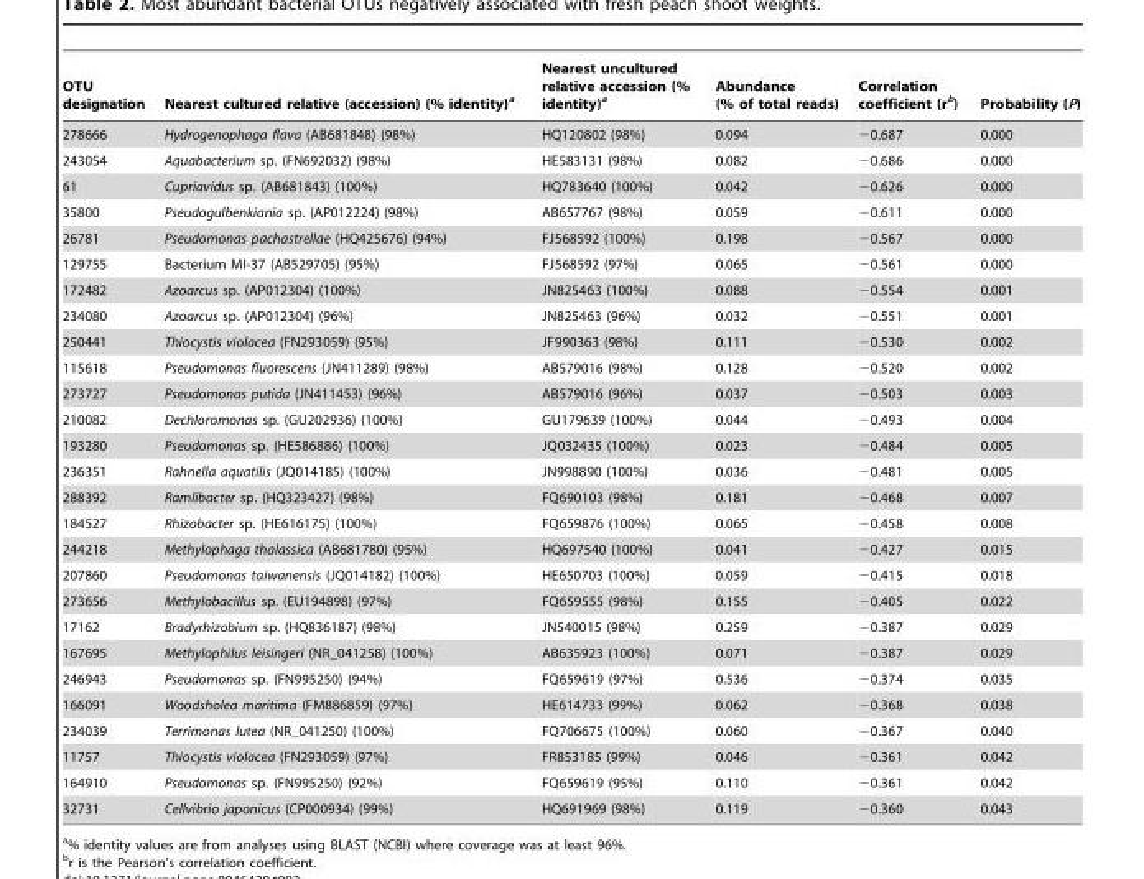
<table><thead><tr><td>OTU designation</td><td>Nearest cultured relative (accession) (% identity)<sup>a</sup></td><td>Nearest uncultured relative accession (% identity)<sup>a</sup></td><td>Abundance (% of total reads)</td><td>Correlation coefficient (r<sup>b</sup>)</td><td>Probability (P)</td></tr></thead><tbody><tr><td>278666</td><td>Hydrogenophaga flava (AB681848) (98%)</td><td>HQ120802 (98%)</td><td>0.094</td><td>−0.687</td><td>0.000</td></tr><tr><td>243054</td><td>Aquabacterium sp. (FN692032) (98%)</td><td>HE583131 (98%)</td><td>0.082</td><td>−0.686</td><td>0.000</td></tr><tr><td>61</td><td>Cupriavidus sp. (AB681843) (100%)</td><td>HQ783640 (100%)</td><td>0.042</td><td>−0.626</td><td>0.000</td></tr><tr><td>35800</td><td>Pseudogulbenkiania sp. (AP012224) (98%)</td><td>AB657767 (98%)</td><td>0.059</td><td>−0.611</td><td>0.000</td></tr><tr><td>26781</td><td>Pseudomonas pachastrellae (HQ425676) (94%)</td><td>FJ568592 (100%)</td><td>0.198</td><td>−0.567</td><td>0.000</td></tr><tr><td>129755</td><td>Bacterium MI-37 (AB529705) (95%)</td><td>FJ568592 (97%)</td><td>0.065</td><td>−0.561</td><td>0.000</td></tr><tr><td>172482</td><td>Azoarcus sp. (AP012304) (100%)</td><td>JN825463 (100%)</td><td>0.088</td><td>−0.554</td><td>0.001</td></tr><tr><td>234080</td><td>Azoarcus sp. (AP012304) (96%)</td><td>JN825463 (96%)</td><td>0.032</td><td>−0.551</td><td>0.001</td></tr><tr><td>250441</td><td>Thiocystis violacea (FN293059) (95%)</td><td>JF990363 (98%)</td><td>0.111</td><td>−0.530</td><td>0.002</td></tr><tr><td>115618</td><td>Pseudomonas fluorescens (JN411289) (98%)</td><td>AB579016 (98%)</td><td>0.128</td><td>−0.520</td><td>0.002</td></tr><tr><td>273727</td><td>Pseudomonas putida (JN411453) (96%)</td><td>AB579016 (96%)</td><td>0.037</td><td>−0.503</td><td>0.003</td></tr><tr><td>210082</td><td>Dechloromonas sp. (GU202936) (100%)</td><td>GU179639 (100%)</td><td>0.044</td><td>−0.493</td><td>0.004</td></tr><tr><td>193280</td><td>Pseudomonas sp. (HE586886) (100%)</td><td>JQ032435 (100%)</td><td>0.023</td><td>−0.484</td><td>0.005</td></tr><tr><td>236351</td><td>Rahnella aquatilis (JQ014185) (100%)</td><td>JN998890 (100%)</td><td>0.036</td><td>−0.481</td><td>0.005</td></tr><tr><td>288392</td><td>Ramlibacter sp. (HQ323427) (98%)</td><td>FQ690103 (98%)</td><td>0.181</td><td>−0.468</td><td>0.007</td></tr><tr><td>184527</td><td>Rhizobacter sp. (HE616175) (100%)</td><td>FQ659876 (100%)</td><td>0.065</td><td>−0.458</td><td>0.008</td></tr><tr><td>244218</td><td>Methylophaga thalassica (AB681780) (95%)</td><td>HQ697540 (100%)</td><td>0.041</td><td>−0.427</td><td>0.015</td></tr><tr><td>207860</td><td>Pseudomonas taiwanensis (JQ014182) (100%)</td><td>HE650703 (100%)</td><td>0.059</td><td>−0.415</td><td>0.018</td></tr><tr><td>273656</td><td>Methylobacillus sp. (EU194898) (97%)</td><td>FQ659555 (98%)</td><td>0.155</td><td>−0.405</td><td>0.022</td></tr><tr><td>17162</td><td>Bradyrhizobium sp. (HQ836187) (98%)</td><td>JN540015 (98%)</td><td>0.259</td><td>−0.387</td><td>0.029</td></tr><tr><td>167695</td><td>Methylophilus leisingeri (NR_041258) (100%)</td><td>AB635923 (100%)</td><td>0.071</td><td>−0.387</td><td>0.029</td></tr><tr><td>246943</td><td>Pseudomonas sp. (FN995250) (94%)</td><td>FQ659619 (97%)</td><td>0.536</td><td>−0.374</td><td>0.035</td></tr><tr><td>166091</td><td>Woodsholea maritima (FM886859) (97%)</td><td>HE614733 (99%)</td><td>0.062</td><td>−0.368</td><td>0.038</td></tr><tr><td>234039</td><td>Terrimonas lutea (NR_041250) (100%)</td><td>FQ706675 (100%)</td><td>0.060</td><td>−0.367</td><td>0.040</td></tr><tr><td>11757</td><td>Thiocystis violacea (FN293059) (97%)</td><td>FR853185 (99%)</td><td>0.046</td><td>−0.361</td><td>0.042</td></tr><tr><td>164910</td><td>Pseudomonas sp. (FN995250) (92%)</td><td>FQ659619 (95%)</td><td>0.110</td><td>−0.361</td><td>0.042</td></tr><tr><td>32731</td><td>Cellvibrio japonicus (CP000934) (99%)</td><td>HQ691969 (98%)</td><td>0.119</td><td>−0.360</td><td>0.043</td></tr></tbody></table>